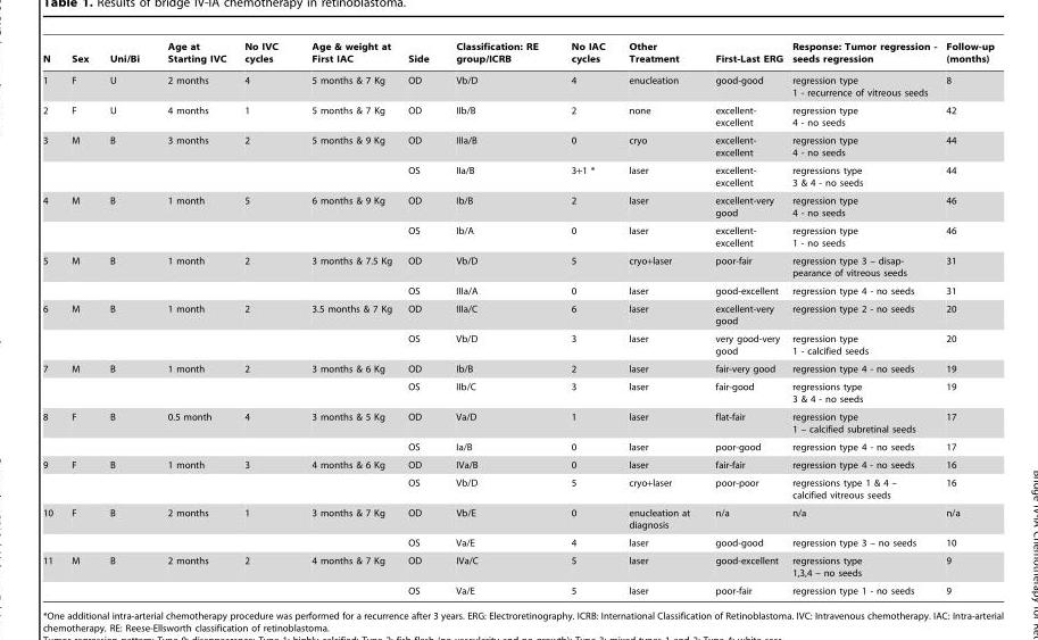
<table><thead><tr><td>N</td><td>Sex</td><td>Uni/Bi</td><td>Age at Starting IVC</td><td>No IVC cycles</td><td>Age &amp; weight at First IAC</td><td>Side</td><td>Classification: RE group/ICRB</td><td>No IAC cycles</td><td>Other Treatment</td><td>First-Last ERG</td><td>Response: Tumor regression - seeds regression</td><td>Follow-up (months)</td></tr></thead><tbody><tr><td>1</td><td>F</td><td>U</td><td>2 months</td><td>4</td><td>5 months &amp; 7 Kg</td><td>OD</td><td>Vb/D</td><td>4</td><td>enucleation</td><td>good-good</td><td>regression type 1 - recurrence of vitreous seeds</td><td>8</td></tr><tr><td>2</td><td>F</td><td>U</td><td>4 months</td><td>1</td><td>5 months &amp; 7 Kg</td><td>OD</td><td>IIb/B</td><td>2</td><td>none</td><td>excellent- excellent</td><td>regression type 4 - no seeds</td><td>42</td></tr><tr><td rowspan="2">3</td><td>M</td><td>B</td><td>3 months</td><td>2</td><td>5 months &amp; 9 Kg</td><td>OD</td><td>IIIa/B</td><td>0</td><td>cryo</td><td>excellent- excellent</td><td>regression type 4 - no seeds</td><td>44</td></tr><tr><td></td><td></td><td></td><td></td><td></td><td>OS</td><td>IIa/B</td><td>3+1 *</td><td>laser</td><td>excellent- excellent</td><td>regressions type 3 &amp; 4 - no seeds</td><td>44</td></tr><tr><td rowspan="2">4</td><td>M</td><td>B</td><td>1 month</td><td>5</td><td>6 months &amp; 9 Kg</td><td>OD</td><td>Ib/B</td><td>2</td><td>laser</td><td>excellent-very good</td><td>regression type 4 - no seeds</td><td>46</td></tr><tr><td></td><td></td><td></td><td></td><td></td><td>OS</td><td>Ib/A</td><td>0</td><td>laser</td><td>excellent- excellent</td><td>regression type 1 - no seeds</td><td>46</td></tr><tr><td rowspan="2">5</td><td>M</td><td>B</td><td>1 month</td><td>2</td><td>3 months &amp; 7.5 Kg</td><td>OD</td><td>Vb/D</td><td>5</td><td>cryo+laser</td><td>poor-fair</td><td>regression type 3 – disap- pearance of vitreous seeds</td><td>31</td></tr><tr><td></td><td></td><td></td><td></td><td></td><td>OS</td><td>IIIa/A</td><td>0</td><td>laser</td><td>good-excellent</td><td>regression type 4 - no seeds</td><td>31</td></tr><tr><td rowspan="2">6</td><td>M</td><td>B</td><td>1 month</td><td>2</td><td>3.5 months &amp; 7 Kg</td><td>OD</td><td>IIIa/C</td><td>6</td><td>laser</td><td>excellent-very good</td><td>regression type 2 - no seeds</td><td>20</td></tr><tr><td></td><td></td><td></td><td></td><td></td><td>OS</td><td>Vb/D</td><td>3</td><td>laser</td><td>very good-very good</td><td>regression type 1 - calcified seeds</td><td>20</td></tr><tr><td rowspan="2">7</td><td>M</td><td>B</td><td>1 month</td><td>2</td><td>3 months &amp; 6 Kg</td><td>OD</td><td>Ib/B</td><td>2</td><td>laser</td><td>fair-very good</td><td>regression type 4 - no seeds</td><td>19</td></tr><tr><td></td><td></td><td></td><td></td><td></td><td>OS</td><td>IIb/C</td><td>3</td><td>laser</td><td>fair-good</td><td>regressions type 3 &amp; 4 - no seeds</td><td>19</td></tr><tr><td rowspan="2">8</td><td>F</td><td>B</td><td>0.5 month</td><td>4</td><td>3 months &amp; 5 Kg</td><td>OD</td><td>Va/D</td><td>1</td><td>laser</td><td>flat-fair</td><td>regression type 1 – calcified subretinal seeds</td><td>17</td></tr><tr><td></td><td></td><td></td><td></td><td></td><td>OS</td><td>Ia/B</td><td>0</td><td>laser</td><td>poor-good</td><td>regression type 4 - no seeds</td><td>17</td></tr><tr><td rowspan="2">9</td><td>F</td><td>B</td><td>1 month</td><td>3</td><td>4 months &amp; 6 Kg</td><td>OD</td><td>IVa/B</td><td>0</td><td>laser</td><td>fair-fair</td><td>regression type 4 - no seeds</td><td>16</td></tr><tr><td></td><td></td><td></td><td></td><td></td><td>OS</td><td>Vb/D</td><td>5</td><td>cryo+laser</td><td>poor-poor</td><td>regressions type 1 &amp; 4 – calcified vitreous seeds</td><td>16</td></tr><tr><td rowspan="2">10</td><td>F</td><td>B</td><td>2 months</td><td>1</td><td>3 months &amp; 7 Kg</td><td>OD</td><td>Vb/E</td><td>0</td><td>enucleation at diagnosis</td><td>n/a</td><td>n/a</td><td>n/a</td></tr><tr><td></td><td></td><td></td><td></td><td></td><td>OS</td><td>Va/E</td><td>4</td><td>laser</td><td>good-good</td><td>regression type 3 – no seeds</td><td>10</td></tr><tr><td rowspan="2">11</td><td>M</td><td>B</td><td>2 months</td><td>2</td><td>4 months &amp; 7 Kg</td><td>OD</td><td>IVa/C</td><td>5</td><td>laser</td><td>good-excellent</td><td>regressions type 1,3,4 – no seeds</td><td>9</td></tr><tr><td></td><td></td><td></td><td></td><td></td><td>OS</td><td>Va/E</td><td>5</td><td>laser</td><td>poor-fair</td><td>regression type 1 - no seeds</td><td>9</td></tr></tbody></table>